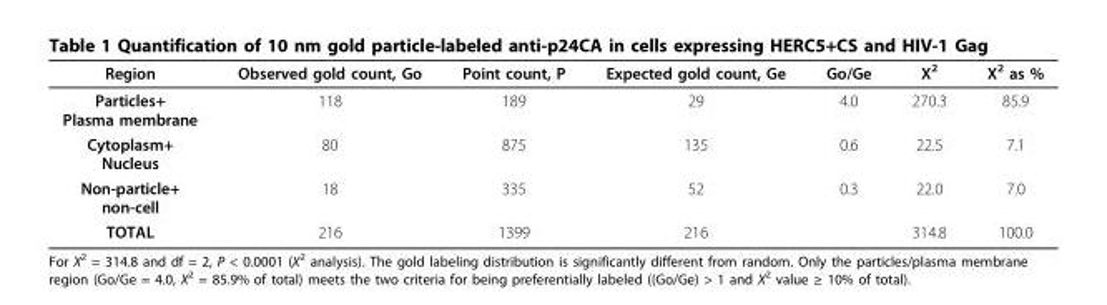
<table><thead><tr><td>Region</td><td>Observed gold count, Go</td><td>Point count, P</td><td>Expected gold count, Ge</td><td>Go/Ge</td><td>Χ<sup>2</sup></td><td>Χ<sup>2</sup> as %</td></tr></thead><tbody><tr><td>Particles+ Plasma membrane</td><td>118</td><td>189</td><td>29</td><td>4.0</td><td>270.3</td><td>85.9</td></tr><tr><td>Cytoplasm+ Nucleus</td><td>80</td><td>875</td><td>135</td><td>0.6</td><td>22.5</td><td>7.1</td></tr><tr><td>Non-particle+ non-cell</td><td>18</td><td>335</td><td>52</td><td>0.3</td><td>22.0</td><td>7.0</td></tr><tr><td>TOTAL</td><td>216</td><td>1399</td><td>216</td><td></td><td>314.8</td><td>100.0</td></tr></tbody></table>